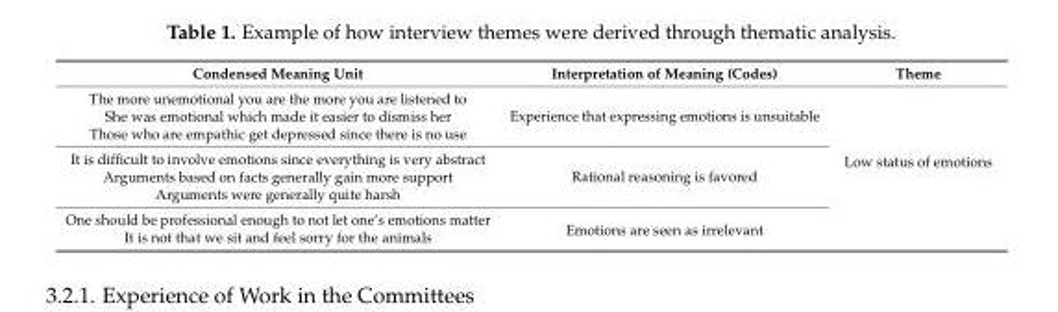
<table><thead><tr><td>Condensed Meaning Unit</td><td>Interpretation of Meaning (Codes)</td><td>Theme</td></tr></thead><tbody><tr><td>The more unemotional you are the more you are listened to</td><td rowspan="3">Experience that expressing emotions is unsuitable</td><td rowspan="8">Low status of emotions</td></tr><tr><td>She was emotional which made it easier to dismiss her</td></tr><tr><td>Those who are empathic get depressed since there is no use</td></tr><tr><td>It is difficult to involve emotions since everything is very abstract</td><td rowspan="3">Rational reasoning is favored</td></tr><tr><td>Arguments based on facts generally gain more support</td></tr><tr><td>Arguments were generally quite harsh</td></tr><tr><td>One should be professional enough to not let one’s emotions matter</td><td rowspan="2">Emotions are seen as irrelevant</td></tr><tr><td>It is not that we sit and feel sorry for the animals</td></tr></tbody></table>